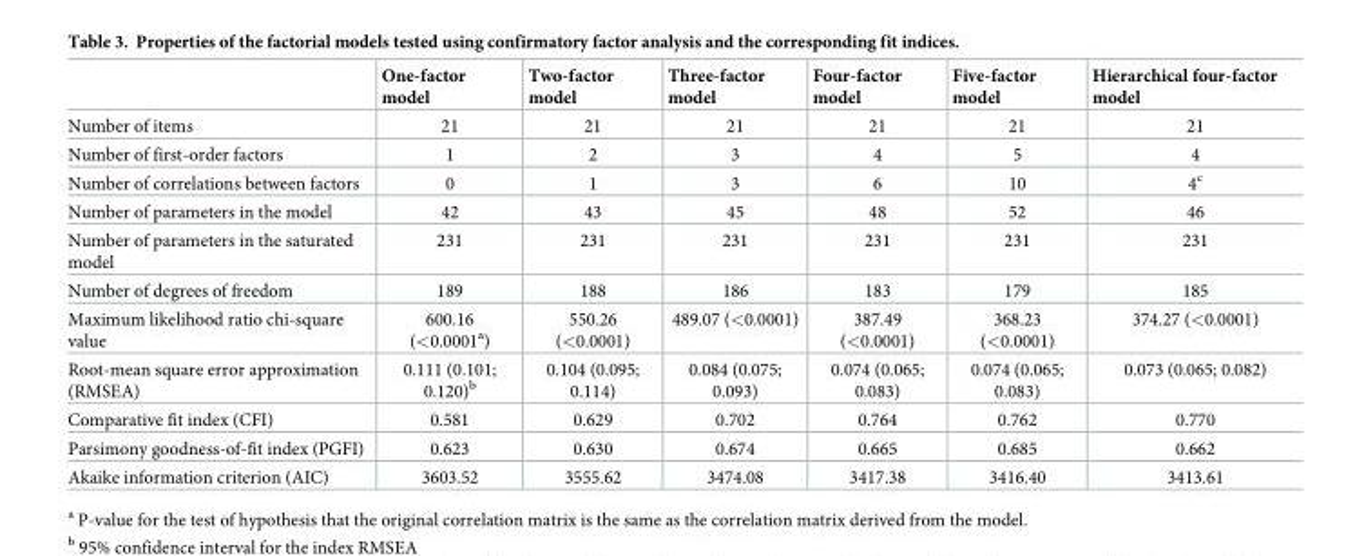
<table><thead><tr><td></td><td>One-factor model</td><td>Two-factor model</td><td>Three-factor model</td><td>Four-factor model</td><td>Five-factor model</td><td>Hierarchical four-factor model</td></tr></thead><tbody><tr><td>Number of items</td><td>21</td><td>21</td><td>21</td><td>21</td><td>21</td><td>21</td></tr><tr><td>Number of first-order factors</td><td>1</td><td>2</td><td>3</td><td>4</td><td>5</td><td>4</td></tr><tr><td>Number of correlations between factors</td><td>0</td><td>1</td><td>3</td><td>6</td><td>10</td><td>4<sup>c</sup></td></tr><tr><td>Number of parameters in the model</td><td>42</td><td>43</td><td>45</td><td>48</td><td>52</td><td>46</td></tr><tr><td>Number of parameters in the saturated model</td><td>231</td><td>231</td><td>231</td><td>231</td><td>231</td><td>231</td></tr><tr><td>Number of degrees of freedom</td><td>189</td><td>188</td><td>186</td><td>183</td><td>179</td><td>185</td></tr><tr><td>Maximum likelihood ratio chi-square value</td><td>600.16 (&lt;0.0001<sup>a</sup>)</td><td>550.26 (&lt;0.0001)</td><td>489.07 (&lt;0.0001)</td><td>387.49 (&lt;0.0001)</td><td>368.23 (&lt;0.0001)</td><td>374.27 (&lt;0.0001)</td></tr><tr><td>Root-mean square error approximation (RMSEA)</td><td>0.111 (0.101; 0.120)<sup>b</sup></td><td>0.104 (0.095; 0.114)</td><td>0.084 (0.075; 0.093)</td><td>0.074 (0.065; 0.083)</td><td>0.074 (0.065; 0.083)</td><td>0.073 (0.065; 0.082)</td></tr><tr><td>Comparative fit index (CFI)</td><td>0.581</td><td>0.629</td><td>0.702</td><td>0.764</td><td>0.762</td><td>0.770</td></tr><tr><td>Parsimony goodness-of-fit index (PGFI)</td><td>0.623</td><td>0.630</td><td>0.674</td><td>0.665</td><td>0.685</td><td>0.662</td></tr><tr><td>Akaike information criterion (AIC)</td><td>3603.52</td><td>3555.62</td><td>3474.08</td><td>3417.38</td><td>3416.40</td><td>3413.61</td></tr></tbody></table>